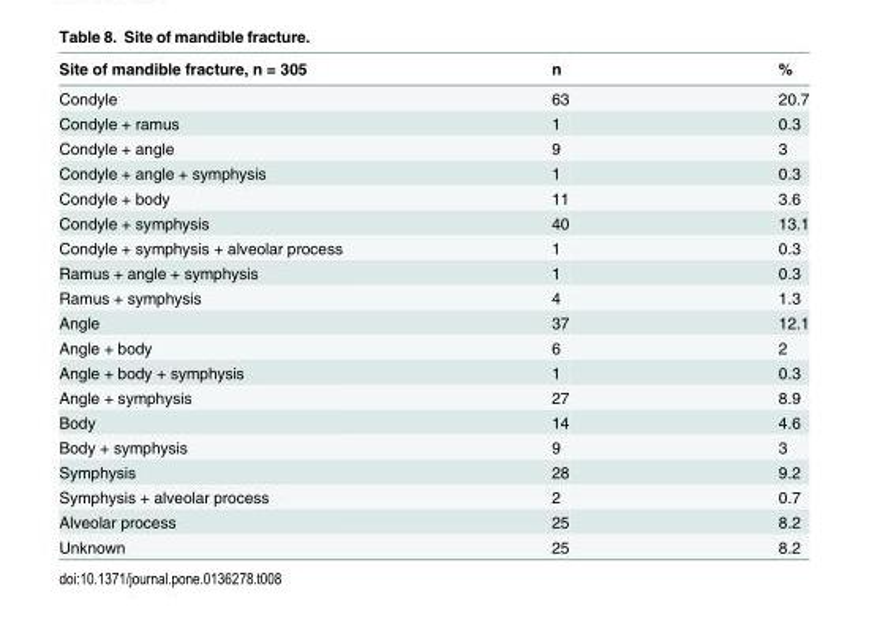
<table><thead><tr><td>Site of mandible fracture, n = 305</td><td>n</td><td>%</td></tr></thead><tbody><tr><td>Condyle</td><td>63</td><td>20.7</td></tr><tr><td>Condyle + ramus</td><td>1</td><td>0.3</td></tr><tr><td>Condyle + angle</td><td>9</td><td>3</td></tr><tr><td>Condyle + angle + symphysis</td><td>1</td><td>0.3</td></tr><tr><td>Condyle + body</td><td>11</td><td>3.6</td></tr><tr><td>Condyle + symphysis</td><td>40</td><td>13.1</td></tr><tr><td>Condyle + symphysis + alveolar process</td><td>1</td><td>0.3</td></tr><tr><td>Ramus + angle + symphysis</td><td>1</td><td>0.3</td></tr><tr><td>Ramus + symphysis</td><td>4</td><td>1.3</td></tr><tr><td>Angle</td><td>37</td><td>12.1</td></tr><tr><td>Angle + body</td><td>6</td><td>2</td></tr><tr><td>Angle + body + symphysis</td><td>1</td><td>0.3</td></tr><tr><td>Angle + symphysis</td><td>27</td><td>8.9</td></tr><tr><td>Body</td><td>14</td><td>4.6</td></tr><tr><td>Body + symphysis</td><td>9</td><td>3</td></tr><tr><td>Symphysis</td><td>28</td><td>9.2</td></tr><tr><td>Symphysis + alveolar process</td><td>2</td><td>0.7</td></tr><tr><td>Alveolar process</td><td>25</td><td>8.2</td></tr><tr><td>Unknown</td><td>25</td><td>8.2</td></tr></tbody></table>